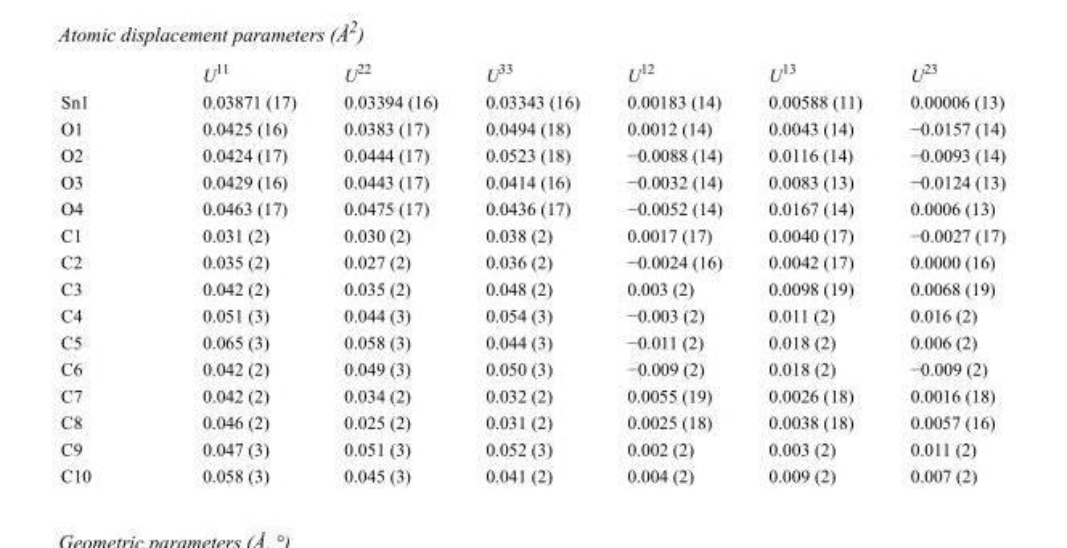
<table><thead><tr><td></td><td>U<sup>11</sup></td><td>U<sup>22</sup></td><td>U<sup>33</sup></td><td>U<sup>12</sup></td><td>U<sup>13</sup></td><td>U<sup>23</sup></td></tr></thead><tbody><tr><td>Sn1</td><td>0.03871 (17)</td><td>0.03394 (16)</td><td>0.03343 (16)</td><td>0.00183 (14)</td><td>0.00588 (11)</td><td>0.00006 (13)</td></tr><tr><td>O1</td><td>0.0425 (16)</td><td>0.0383 (17)</td><td>0.0494 (18)</td><td>0.0012 (14)</td><td>0.0043 (14)</td><td>−0.0157 (14)</td></tr><tr><td>O2</td><td>0.0424 (17)</td><td>0.0444 (17)</td><td>0.0523 (18)</td><td>−0.0088 (14)</td><td>0.0116 (14)</td><td>−0.0093 (14)</td></tr><tr><td>O3</td><td>0.0429 (16)</td><td>0.0443 (17)</td><td>0.0414 (16)</td><td>−0.0032 (14)</td><td>0.0083 (13)</td><td>−0.0124 (13)</td></tr><tr><td>O4</td><td>0.0463 (17)</td><td>0.0475 (17)</td><td>0.0436 (17)</td><td>−0.0052 (14)</td><td>0.0167 (14)</td><td>0.0006 (13)</td></tr><tr><td>C1</td><td>0.031 (2)</td><td>0.030 (2)</td><td>0.038 (2)</td><td>0.0017 (17)</td><td>0.0040 (17)</td><td>−0.0027 (17)</td></tr><tr><td>C2</td><td>0.035 (2)</td><td>0.027 (2)</td><td>0.036 (2)</td><td>−0.0024 (16)</td><td>0.0042 (17)</td><td>0.0000 (16)</td></tr><tr><td>C3</td><td>0.042 (2)</td><td>0.035 (2)</td><td>0.048 (2)</td><td>0.003 (2)</td><td>0.0098 (19)</td><td>0.0068 (19)</td></tr><tr><td>C4</td><td>0.051 (3)</td><td>0.044 (3)</td><td>0.054 (3)</td><td>−0.003 (2)</td><td>0.011 (2)</td><td>0.016 (2)</td></tr><tr><td>C5</td><td>0.065 (3)</td><td>0.058 (3)</td><td>0.044 (3)</td><td>−0.011 (2)</td><td>0.018 (2)</td><td>0.006 (2)</td></tr><tr><td>C6</td><td>0.042 (2)</td><td>0.049 (3)</td><td>0.050 (3)</td><td>−0.009 (2)</td><td>0.018 (2)</td><td>−0.009 (2)</td></tr><tr><td>C7</td><td>0.042 (2)</td><td>0.034 (2)</td><td>0.032 (2)</td><td>0.0055 (19)</td><td>0.0026 (18)</td><td>0.0016 (18)</td></tr><tr><td>C8</td><td>0.046 (2)</td><td>0.025 (2)</td><td>0.031 (2)</td><td>0.0025 (18)</td><td>0.0038 (18)</td><td>0.0057 (16)</td></tr><tr><td>C9</td><td>0.047 (3)</td><td>0.051 (3)</td><td>0.052 (3)</td><td>0.002 (2)</td><td>0.003 (2)</td><td>0.011 (2)</td></tr><tr><td>C10</td><td>0.058 (3)</td><td>0.045 (3)</td><td>0.041 (2)</td><td>0.004 (2)</td><td>0.009 (2)</td><td>0.007 (2)</td></tr></tbody></table>